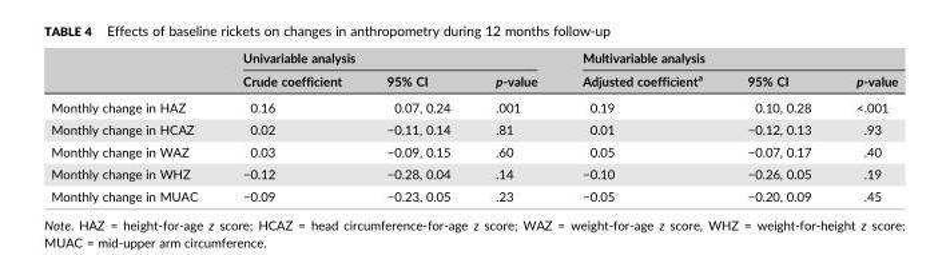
<table><thead><tr><td rowspan="2"></td><td colspan="3">Univariable analysis</td><td colspan="3">Multivariable analysis</td></tr><tr><td>Crude coefficient</td><td>95% CI</td><td>p‐value</td><td>Adjusted coefficient<sup>a</sup></td><td>95% CI</td><td>p‐value</td></tr></thead><tbody><tr><td>Monthly change in HAZ</td><td>0.16</td><td>0.07, 0.24</td><td>.001</td><td>0.19</td><td>0.10, 0.28</td><td>&lt;.001</td></tr><tr><td>Monthly change in HCAZ</td><td>0.02</td><td>−0.11, 0.14</td><td>.81</td><td>0.01</td><td>−0.12, 0.13</td><td>.93</td></tr><tr><td>Monthly change in WAZ</td><td>0.03</td><td>−0.09, 0.15</td><td>.60</td><td>0.05</td><td>−0.07, 0.17</td><td>.40</td></tr><tr><td>Monthly change in WHZ</td><td>−0.12</td><td>−0.28, 0.04</td><td>.14</td><td>−0.10</td><td>−0.26, 0.05</td><td>.19</td></tr><tr><td>Monthly change in MUAC</td><td>−0.09</td><td>−0.23, 0.05</td><td>.23</td><td>−0.05</td><td>−0.20, 0.09</td><td>.45</td></tr></tbody></table>